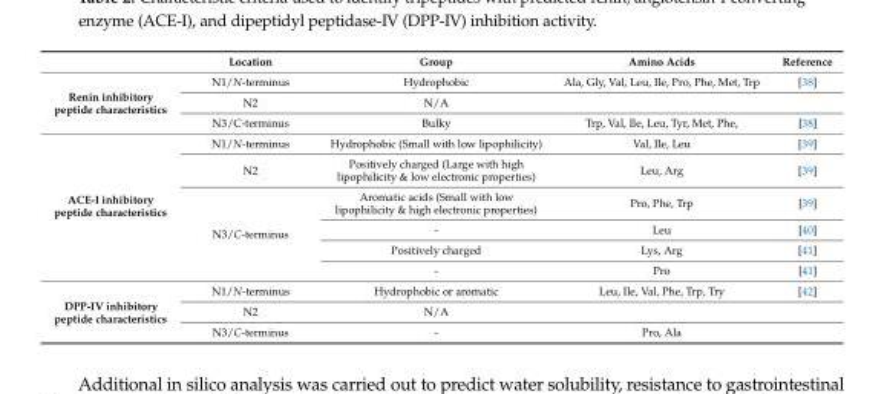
<table><thead><tr><td></td><td>Location</td><td>Group</td><td>Amino Acids</td><td>Reference</td></tr></thead><tbody><tr><td rowspan="3">Renin inhibitory peptide characteristics</td><td>N1/N-terminus</td><td>Hydrophobic</td><td>Ala, Gly, Val, Leu, Ile, Pro, Phe, Met, Trp</td><td>[38]</td></tr><tr><td>N2</td><td>N/A</td><td></td><td></td></tr><tr><td>N3/C-terminus</td><td>Bulky</td><td>Trp, Val, Ile, Leu, Tyr, Met, Phe,</td><td>[38]</td></tr><tr><td rowspan="6">ACE-I inhibitory peptide characteristics</td><td>N1/N-terminus</td><td>Hydrophobic (Small with low lipophilicity)</td><td>Val, Ile, Leu</td><td>[39]</td></tr><tr><td>N2</td><td>Positively charged (Large with high lipophilicity &amp; low electronic properties)</td><td>Leu, Arg</td><td>[39]</td></tr><tr><td rowspan="4">N3/C-terminus</td><td>Aromatic acids (Small with low lipophilicity &amp; high electronic properties)</td><td>Pro, Phe, Trp</td><td>[39]</td></tr><tr><td>-</td><td>Leu</td><td>[40]</td></tr><tr><td>Positively charged</td><td>Lys, Arg</td><td>[41]</td></tr><tr><td>-</td><td>Pro</td><td>[41]</td></tr><tr><td rowspan="3">DPP-IV inhibitory peptide characteristics</td><td>N1/N-terminus</td><td>Hydrophobic or aromatic</td><td>Leu, Ile, Val, Phe, Trp, Try</td><td>[42]</td></tr><tr><td>N2</td><td>N/A</td><td></td><td></td></tr><tr><td>N3/C-terminus</td><td>-</td><td>Pro, Ala</td><td></td></tr></tbody></table>